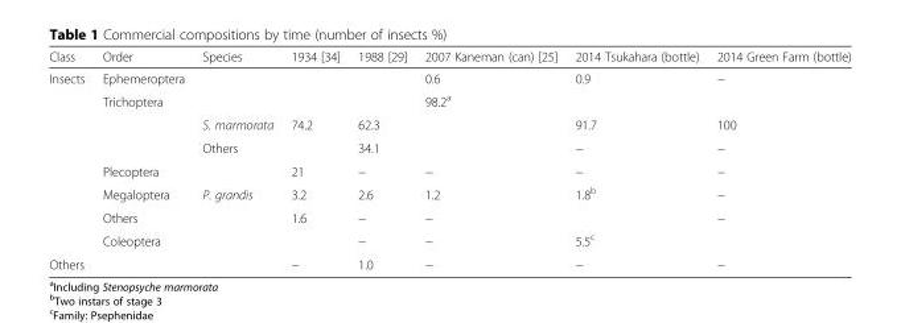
<table><thead><tr><td>Class</td><td>Order</td><td>Species</td><td>1934 [34]</td><td>1988 [29]</td><td>2007 Kaneman (can) [25]</td><td>2014 Tsukahara (bottle)</td><td>2014 Green Farm (bottle)</td></tr></thead><tbody><tr><td rowspan="8">Insects</td><td>Ephemeroptera</td><td></td><td></td><td></td><td>0.6</td><td>0.9</td><td>−</td></tr><tr><td>Trichoptera</td><td></td><td></td><td></td><td>98.2<sup>a</sup></td><td></td><td></td></tr><tr><td></td><td>S. marmorata</td><td>74.2</td><td>62.3</td><td></td><td>91.7</td><td>100</td></tr><tr><td></td><td>Others</td><td></td><td>34.1</td><td></td><td>−</td><td>−</td></tr><tr><td>Plecoptera</td><td></td><td>21</td><td>−</td><td>−</td><td>−</td><td>−</td></tr><tr><td>Megaloptera</td><td>P. grandis</td><td>3.2</td><td>2.6</td><td>1.2</td><td>1.8<sup>b</sup></td><td>−</td></tr><tr><td>Others</td><td></td><td>1.6</td><td>−</td><td>−</td><td></td><td>−</td></tr><tr><td>Coleoptera</td><td></td><td></td><td>−</td><td>−</td><td>5.5<sup>c</sup></td><td></td></tr><tr><td>Others</td><td></td><td></td><td>−</td><td>1.0</td><td>−</td><td>−</td><td>−</td></tr></tbody></table>